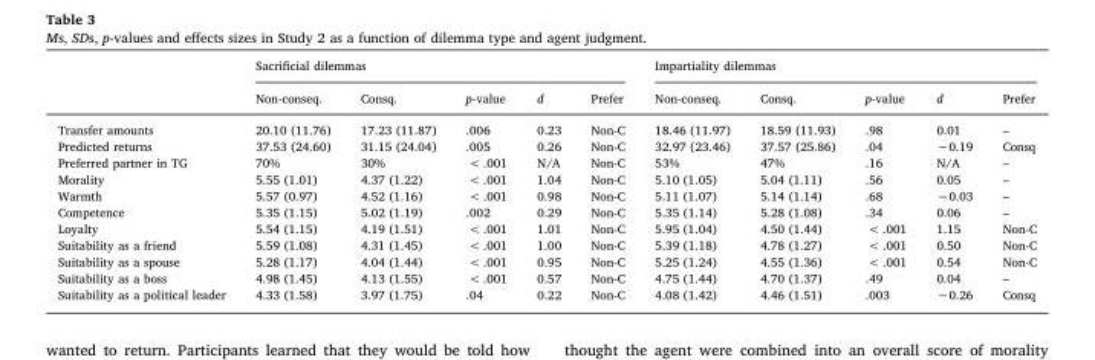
<table><thead><tr><td rowspan="2"></td><td colspan="5">Sacrificial dilemmas</td><td colspan="5">Impartiality dilemmas</td></tr><tr><td>Non-conseq.</td><td>Consq.</td><td>p-value</td><td>d</td><td>Prefer</td><td>Non-conseq.</td><td>Consq.</td><td>p-value</td><td>d</td><td>Prefer</td></tr></thead><tbody><tr><td>Transfer amounts</td><td>20.10 (11.76)</td><td>17.23 (11.87)</td><td>.006</td><td>0.23</td><td>Non-C</td><td>18.46 (11.97)</td><td>18.59 (11.93)</td><td>.98</td><td>0.01</td><td>–</td></tr><tr><td>Predicted returns</td><td>37.53 (24.60)</td><td>31.15 (24.04)</td><td>.005</td><td>0.26</td><td>Non-C</td><td>32.97 (23.46)</td><td>37.57 (25.86)</td><td>.04</td><td>−0.19</td><td>Consq</td></tr><tr><td>Preferred partner in TG</td><td>70%</td><td>30%</td><td>&lt; .001</td><td>N/A</td><td>Non-C</td><td>53%</td><td>47%</td><td>.16</td><td>N/A</td><td>–</td></tr><tr><td>Morality</td><td>5.55 (1.01)</td><td>4.37 (1.22)</td><td>&lt; .001</td><td>1.04</td><td>Non-C</td><td>5.10 (1.05)</td><td>5.04 (1.11)</td><td>.56</td><td>0.05</td><td>–</td></tr><tr><td>Warmth</td><td>5.57 (0.97)</td><td>4.52 (1.16)</td><td>&lt; .001</td><td>0.98</td><td>Non-C</td><td>5.11 (1.07)</td><td>5.14 (1.14)</td><td>.68</td><td>−0.03</td><td>–</td></tr><tr><td>Competence</td><td>5.35 (1.15)</td><td>5.02 (1.19)</td><td>.002</td><td>0.29</td><td>Non-C</td><td>5.35 (1.14)</td><td>5.28 (1.08)</td><td>.34</td><td>0.06</td><td>–</td></tr><tr><td>Loyalty</td><td>5.54 (1.15)</td><td>4.19 (1.51)</td><td>&lt; .001</td><td>1.01</td><td>Non-C</td><td>5.95 (1.04)</td><td>4.50 (1.44)</td><td>&lt; .001</td><td>1.15</td><td>Non-C</td></tr><tr><td>Suitability as a friend</td><td>5.59 (1.08)</td><td>4.31 (1.45)</td><td>&lt; .001</td><td>1.00</td><td>Non-C</td><td>5.39 (1.18)</td><td>4.78 (1.27)</td><td>&lt; .001</td><td>0.50</td><td>Non-C</td></tr><tr><td>Suitability as a spouse</td><td>5.28 (1.17)</td><td>4.04 (1.44)</td><td>&lt; .001</td><td>0.95</td><td>Non-C</td><td>5.25 (1.24)</td><td>4.55 (1.36)</td><td>&lt; .001</td><td>0.54</td><td>Non-C</td></tr><tr><td>Suitability as a boss</td><td>4.98 (1.45)</td><td>4.13 (1.55)</td><td>&lt; .001</td><td>0.57</td><td>Non-C</td><td>4.75 (1.44)</td><td>4.70 (1.37)</td><td>.49</td><td>0.04</td><td>–</td></tr><tr><td>Suitability as a political leader</td><td>4.33 (1.58)</td><td>3.97 (1.75)</td><td>.04</td><td>0.22</td><td>Non-C</td><td>4.08 (1.42)</td><td>4.46 (1.51)</td><td>.003</td><td>−0.26</td><td>Consq</td></tr></tbody></table>